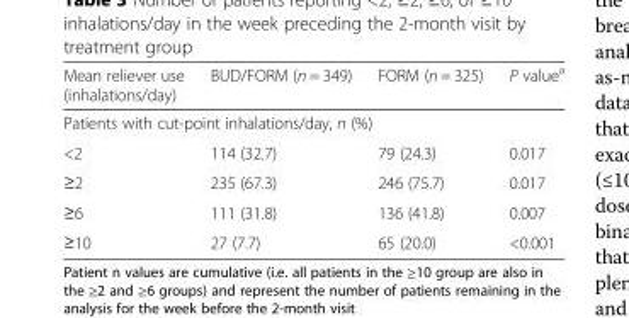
<table><thead><tr><td>Mean reliever use (inhalations/day)</td><td>BUD/FORM (n = 349)</td><td>FORM (n = 325)</td><td>P value<sup>a</sup></td></tr></thead><tbody><tr><td colspan="4">Patients with cut-point inhalations/day, n (%)</td></tr><tr><td>&lt;2</td><td>114 (32.7)</td><td>79 (24.3)</td><td>0.017</td></tr><tr><td>≥2</td><td>235 (67.3)</td><td>246 (75.7)</td><td>0.017</td></tr><tr><td>≥6</td><td>111 (31.8)</td><td>136 (41.8)</td><td>0.007</td></tr><tr><td>≥10</td><td>27 (7.7)</td><td>65 (20.0)</td><td>&lt;0.001</td></tr></tbody></table>